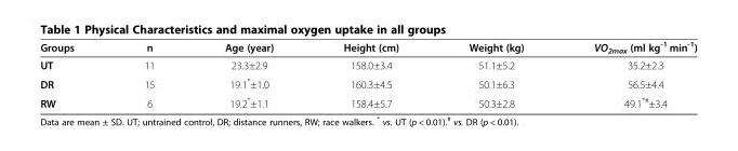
<table><thead><tr><td>Groups</td><td>n</td><td>Age (year)</td><td>Height (cm)</td><td>Weight (kg)</td><td>VO<sub>2max</sub> (ml kg<sup>-1</sup> min<sup>-1</sup>)</td></tr></thead><tbody><tr><td>UT</td><td>11</td><td>23.3±2.9</td><td>158.0±3.4</td><td>51.1±5.2</td><td>35.2±2.3</td></tr><tr><td>DR</td><td>15</td><td>19.1*±1.0</td><td>160.3±4.5</td><td>50.1±6.3</td><td>56.5±4.4</td></tr><tr><td>RW</td><td>6</td><td>19.2*±1.1</td><td>158.4±5.7</td><td>50.3±2.8</td><td>49.1<sup>*#</sup>±3.4</td></tr></tbody></table>